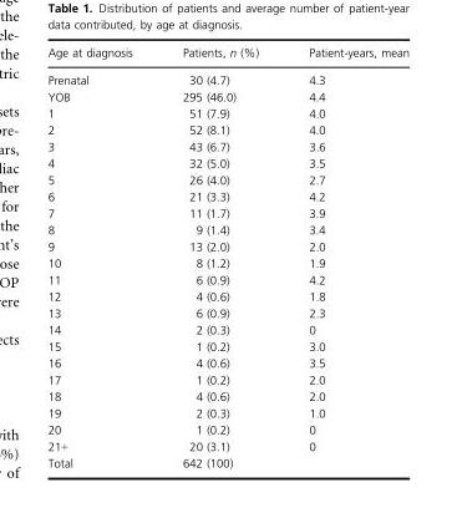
<table><thead><tr><td>Age at diagnosis</td><td>Patients, n (%)</td><td>Patient-years, mean</td></tr></thead><tbody><tr><td>Prenatal</td><td>30 (4.7)</td><td>4.3</td></tr><tr><td>YOB</td><td>295 (46.0)</td><td>4.4</td></tr><tr><td>1</td><td>51 (7.9)</td><td>4.0</td></tr><tr><td>2</td><td>52 (8.1)</td><td>4.0</td></tr><tr><td>3</td><td>43 (6.7)</td><td>3.6</td></tr><tr><td>4</td><td>32 (5.0)</td><td>3.5</td></tr><tr><td>5</td><td>26 (4.0)</td><td>2.7</td></tr><tr><td>6</td><td>21 (3.3)</td><td>4.2</td></tr><tr><td>7</td><td>11 (1.7)</td><td>3.9</td></tr><tr><td>8</td><td>9 (1.4)</td><td>3.4</td></tr><tr><td>9</td><td>13 (2.0)</td><td>2.0</td></tr><tr><td>10</td><td>8 (1.2)</td><td>1.9</td></tr><tr><td>11</td><td>6 (0.9)</td><td>4.2</td></tr><tr><td>12</td><td>4 (0.6)</td><td>1.8</td></tr><tr><td>13</td><td>6 (0.9)</td><td>2.3</td></tr><tr><td>14</td><td>2 (0.3)</td><td>0</td></tr><tr><td>15</td><td>1 (0.2)</td><td>3.0</td></tr><tr><td>16</td><td>4 (0.6)</td><td>3.5</td></tr><tr><td>17</td><td>1 (0.2)</td><td>2.0</td></tr><tr><td>18</td><td>4 (0.6)</td><td>2.0</td></tr><tr><td>19</td><td>2 (0.3)</td><td>1.0</td></tr><tr><td>20</td><td>1 (0.2)</td><td>0</td></tr><tr><td>21+</td><td>20 (3.1)</td><td>0</td></tr><tr><td>Total</td><td>642 (100)</td><td></td></tr></tbody></table>